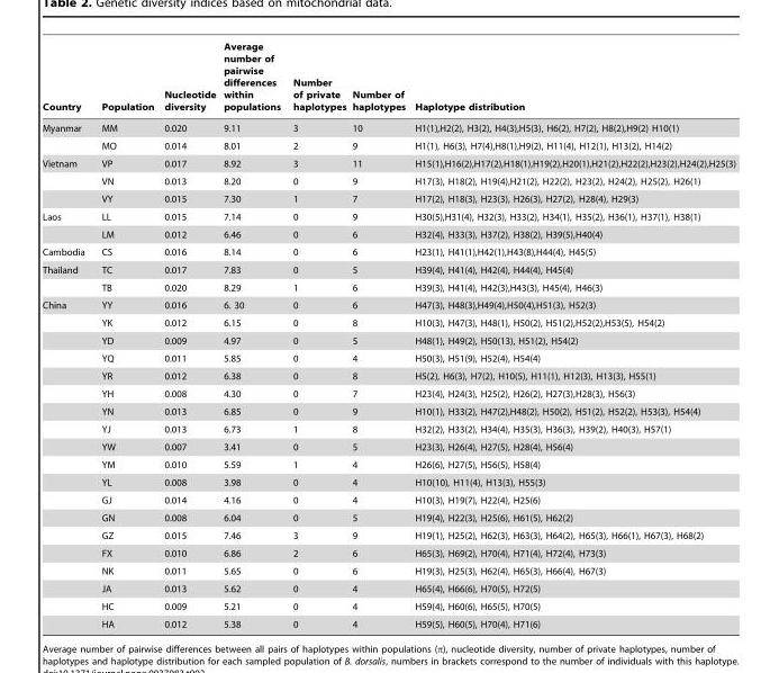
<table><thead><tr><td>Country</td><td>Population</td><td>Nucleotide diversity</td><td>Average number of pairwise differences within populations</td><td>Number of private haplotypes</td><td>Number of haplotypes</td><td>Haplotype distribution</td></tr></thead><tbody><tr><td rowspan="2">Myanmar</td><td>MM</td><td>0.020</td><td>9.11</td><td>3</td><td>10</td><td>H1(1),H2(2), H3(2), H4(3),H5(3), H6(2), H7(2), H8(2),H9(2) H10(1)</td></tr><tr><td>MO</td><td>0.014</td><td>8.01</td><td>2</td><td>9</td><td>H1(1), H6(3), H7(4),H8(1),H9(2), H11(4), H12(1), H13(2), H14(2)</td></tr><tr><td rowspan="3">Vietnam</td><td>VP</td><td>0.017</td><td>8.92</td><td>3</td><td>11</td><td>H15(1),H16(2),H17(2),H18(1),H19(2),H20(1),H21(2),H22(2),H23(2),H24(2),H25(3)</td></tr><tr><td>VN</td><td>0.013</td><td>8.20</td><td>0</td><td>9</td><td>H17(3), H18(2), H19(4),H21(2), H22(2), H23(2), H24(2), H25(2), H26(1)</td></tr><tr><td>VY</td><td>0.015</td><td>7.30</td><td>1</td><td>7</td><td>H17(2), H18(3), H23(3), H26(3), H27(2), H28(4), H29(3)</td></tr><tr><td rowspan="2">Laos</td><td>LL</td><td>0.015</td><td>7.14</td><td>0</td><td>9</td><td>H30(5),H31(4), H32(3), H33(2), H34(1), H35(2), H36(1), H37(1), H38(1)</td></tr><tr><td>LM</td><td>0.012</td><td>6.46</td><td>0</td><td>6</td><td>H32(4), H33(3), H37(2), H38(2), H39(5),H40(4)</td></tr><tr><td>Cambodia</td><td>CS</td><td>0.016</td><td>8.14</td><td>0</td><td>6</td><td>H23(1), H41(1),H42(1),H43(8),H44(4), H45(5)</td></tr><tr><td rowspan="2">Thailand</td><td>TC</td><td>0.017</td><td>7.83</td><td>0</td><td>5</td><td>H39(4), H41(4), H42(4), H44(4), H45(4)</td></tr><tr><td>TB</td><td>0.020</td><td>8.29</td><td>1</td><td>6</td><td>H39(3), H41(4), H42(3),H43(3), H45(4), H46(3)</td></tr><tr><td rowspan="19">China</td><td>YY</td><td>0.016</td><td>6. 30</td><td>0</td><td>6</td><td>H47(3), H48(3),H49(4),H50(4),H51(3), H52(3)</td></tr><tr><td>YK</td><td>0.012</td><td>6.15</td><td>0</td><td>8</td><td>H10(3), H47(3), H48(1), H50(2), H51(2),H52(2),H53(5), H54(2)</td></tr><tr><td>YD</td><td>0.009</td><td>4.97</td><td>0</td><td>5</td><td>H48(1), H49(2), H50(13), H51(2), H54(2)</td></tr><tr><td>YQ</td><td>0.011</td><td>5.85</td><td>0</td><td>4</td><td>H50(3), H51(9), H52(4), H54(4)</td></tr><tr><td>YR</td><td>0.012</td><td>6.38</td><td>0</td><td>8</td><td>H5(2), H6(3), H7(2), H10(5), H11(1), H12(3), H13(3), H55(1)</td></tr><tr><td>YH</td><td>0.008</td><td>4.30</td><td>0</td><td>7</td><td>H23(4), H24(3), H25(2), H26(2), H27(3),H28(3), H56(3)</td></tr><tr><td>YN</td><td>0.013</td><td>6.85</td><td>0</td><td>9</td><td>H10(1), H33(2), H47(2),H48(2), H50(2), H51(2), H52(2), H53(3), H54(4)</td></tr><tr><td>YJ</td><td>0.013</td><td>6.73</td><td>1</td><td>8</td><td>H32(2), H33(2), H34(4), H35(3), H36(3), H39(2), H40(3), H57(1)</td></tr><tr><td>YW</td><td>0.007</td><td>3.41</td><td>0</td><td>5</td><td>H23(3), H26(4), H27(5), H28(4), H56(4)</td></tr><tr><td>YM</td><td>0.010</td><td>5.59</td><td>1</td><td>4</td><td>H26(6), H27(5), H56(5), H58(4)</td></tr><tr><td>YL</td><td>0.008</td><td>3.98</td><td>0</td><td>4</td><td>H10(10), H11(4), H13(3), H55(3)</td></tr><tr><td>GJ</td><td>0.014</td><td>4.16</td><td>0</td><td>4</td><td>H10(3), H19(7), H22(4), H25(6)</td></tr><tr><td>GN</td><td>0.008</td><td>6.04</td><td>0</td><td>5</td><td>H19(4), H22(3), H25(6), H61(5), H62(2)</td></tr><tr><td>GZ</td><td>0.015</td><td>7.46</td><td>3</td><td>9</td><td>H19(1), H25(2), H62(3), H63(3), H64(2), H65(3), H66(1), H67(3), H68(2)</td></tr><tr><td>FX</td><td>0.010</td><td>6.86</td><td>2</td><td>6</td><td>H65(3), H69(2), H70(4), H71(4), H72(4), H73(3)</td></tr><tr><td>NK</td><td>0.011</td><td>5.65</td><td>0</td><td>6</td><td>H19(3), H25(3), H62(4), H65(3), H66(4), H67(3)</td></tr><tr><td>JA</td><td>0.013</td><td>5.62</td><td>0</td><td>4</td><td>H65(4), H66(6), H70(5), H72(5)</td></tr><tr><td>HC</td><td>0.009</td><td>5.21</td><td>0</td><td>4</td><td>H59(4), H60(6), H65(5), H70(5)</td></tr><tr><td>HA</td><td>0.012</td><td>5.38</td><td>0</td><td>4</td><td>H59(5), H60(5), H70(4), H71(6)</td></tr></tbody></table>